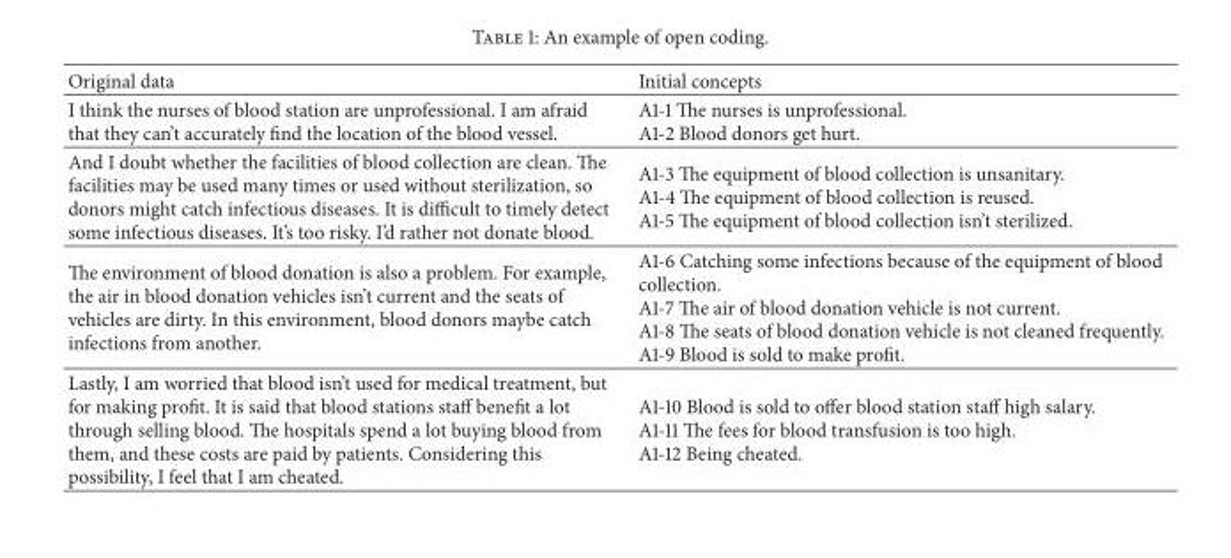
<table><thead><tr><td>Original data</td><td>Initial concepts</td></tr></thead><tbody><tr><td>I think the nurses of blood station are unprofessional. I am afraid that they can’t accurately find the location of the blood vessel.</td><td>A1-1 The nurses is unprofessional. A1-2 Blood donors get hurt.</td></tr><tr><td>And I doubt whether the facilities of blood collection are clean. The facilities may be used many times or used without sterilization, so donors might catch infectious diseases. It is difficult to timely detect some infectious diseases. It’s too risky. I’d rather not donate blood.</td><td>A1-3 The equipment of blood collection is unsanitary. A1-4 The equipment of blood collection is reused. A1-5 The equipment of blood collection isn’t sterilized.</td></tr><tr><td>The environment of blood donation is also a problem. For example, the air in blood donation vehicles isn’t current and the seats of vehicles are dirty. In this environment, blood donors maybe catch infections from another.</td><td>A1-6 Catching some infections because of the equipment of blood collection. A1-7 The air of blood donation vehicle is not current. A1-8 The seats of blood donation vehicle is not cleaned frequently. A1-9 Blood is sold to make profit.</td></tr><tr><td>Lastly, I am worried that blood isn’t used for medical treatment, but for making profit. It is said that blood stations staff benefit a lot through selling blood. The hospitals spend a lot buying blood from them, and these costs are paid by patients. Considering this possibility, I feel that I am cheated.</td><td>A1-10 Blood is sold to offer blood station staff high salary. A1-11 The fees for blood transfusion is too high. A1-12 Being cheated.</td></tr></tbody></table>